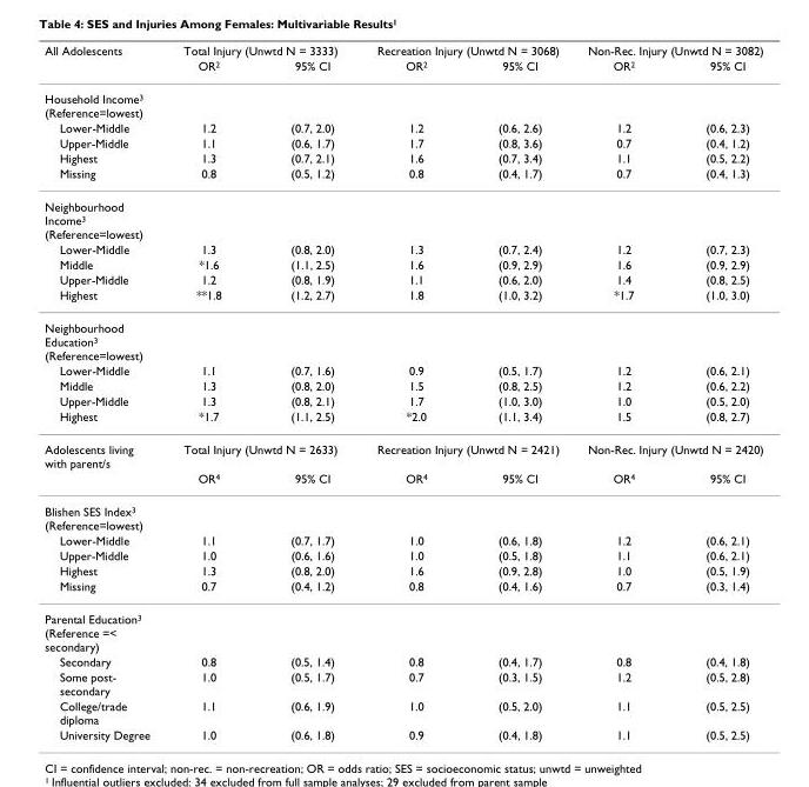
<table><thead><tr><td rowspan="2">All Adolescents</td><td colspan="2">Total Injury (Unwtd N = 3333)</td><td colspan="2">Recreation Injury (Unwtd N = 3068)</td><td colspan="2">Non-Rec. Injury (Unwtd N = 3082)</td></tr><tr><td>OR<sup>2</sup></td><td>95% CI</td><td>OR<sup>2</sup></td><td>95% CI</td><td>OR<sup>2</sup></td><td>95% CI</td></tr></thead><tbody><tr><td colspan="7">Household Income<sup>3</sup> (Reference=lowest)</td></tr><tr><td>Lower-Middle</td><td>1.2</td><td>(0.7, 2.0)</td><td>1.2</td><td>(0.6, 2.6)</td><td>1.2</td><td>(0.6, 2.3)</td></tr><tr><td>Upper-Middle</td><td>1.1</td><td>(0.6, 1.7)</td><td>1.7</td><td>(0.8, 3.6)</td><td>0.7</td><td>(0.4, 1.2)</td></tr><tr><td>Highest</td><td>1.3</td><td>(0.7, 2.1)</td><td>1.6</td><td>(0.7, 3.4)</td><td>1.1</td><td>(0.5, 2.2)</td></tr><tr><td>Missing</td><td>0.8</td><td>(0.5, 1.2)</td><td>0.8</td><td>(0.4, 1.7)</td><td>0.7</td><td>(0.4, 1.3)</td></tr><tr><td colspan="7">Neighbourhood Income<sup>3</sup> (Reference=lowest)</td></tr><tr><td>Lower-Middle</td><td>1.3</td><td>(0.8, 2.0)</td><td>1.3</td><td>(0.7, 2.4)</td><td>1.2</td><td>(0.7, 2.3)</td></tr><tr><td>Middle</td><td>*1.6</td><td>(1.1, 2.5)</td><td>1.6</td><td>(0.9, 2.9)</td><td>1.6</td><td>(0.9, 2.9)</td></tr><tr><td>Upper-Middle</td><td>1.2</td><td>(0.8, 1.9)</td><td>1.1</td><td>(0.6, 2.0)</td><td>1.4</td><td>(0.8, 2.5)</td></tr><tr><td>Highest</td><td>**1.8</td><td>(1.2, 2.7)</td><td>1.8</td><td>(1.0, 3.2)</td><td>*1.7</td><td>(1.0, 3.0)</td></tr><tr><td colspan="7">Neighbourhood Education<sup>3</sup> (Reference=lowest)</td></tr><tr><td>Lower-Middle</td><td>1.1</td><td>(0.7, 1.6)</td><td>0.9</td><td>(0.5, 1.7)</td><td>1.2</td><td>(0.6, 2.1)</td></tr><tr><td>Middle</td><td>1.3</td><td>(0.8, 2.0)</td><td>1.5</td><td>(0.8, 2.5)</td><td>1.2</td><td>(0.6, 2.2)</td></tr><tr><td>Upper-Middle</td><td>1.3</td><td>(0.8, 2.1)</td><td>1.7</td><td>(1.0, 3.0)</td><td>1.0</td><td>(0.5, 2.0)</td></tr><tr><td>Highest</td><td>*1.7</td><td>(1.1, 2.5)</td><td>*2.0</td><td>(1.1, 3.4)</td><td>1.5</td><td>(0.8, 2.7)</td></tr><tr><td rowspan="2">Adolescents living with parent/s</td><td colspan="2">Total Injury (Unwtd N = 2633)</td><td colspan="2">Recreation Injury (Unwtd N = 2421)</td><td colspan="2">Non-Rec. Injury (Unwtd N = 2420)</td></tr><tr><td>OR<sup>4</sup></td><td>95% CI</td><td>OR<sup>4</sup></td><td>95% CI</td><td>OR<sup>4</sup></td><td>95% CI</td></tr><tr><td colspan="7">Blishen SES Index<sup>3</sup> (Reference=lowest)</td></tr><tr><td>Lower-Middle</td><td>1.1</td><td>(0.7, 1.7)</td><td>1.0</td><td>(0.6, 1.8)</td><td>1.2</td><td>(0.6, 2.1)</td></tr><tr><td>Upper-Middle</td><td>1.0</td><td>(0.6, 1.6)</td><td>1.0</td><td>(0.5, 1.8)</td><td>1.1</td><td>(0.6, 2.1)</td></tr><tr><td>Highest</td><td>1.3</td><td>(0.8, 2.0)</td><td>1.6</td><td>(0.9, 2.8)</td><td>1.0</td><td>(0.5, 1.9)</td></tr><tr><td>Missing</td><td>0.7</td><td>(0.4, 1.2)</td><td>0.8</td><td>(0.4, 1.6)</td><td>0.7</td><td>(0.3, 1.4)</td></tr><tr><td colspan="7">Parental Education<sup>3</sup> (Reference =&lt; secondary)</td></tr><tr><td>Secondary</td><td>0.8</td><td>(0.5, 1.4)</td><td>0.8</td><td>(0.4, 1.7)</td><td>0.8</td><td>(0.4, 1.8)</td></tr><tr><td>Some post- secondary</td><td>1.0</td><td>(0.5, 1.7)</td><td>0.7</td><td>(0.3, 1.5)</td><td>1.2</td><td>(0.5, 2.8)</td></tr><tr><td>College/trade diploma</td><td>1.1</td><td>(0.6, 1.9)</td><td>1.0</td><td>(0.5, 2.0)</td><td>1.1</td><td>(0.5, 2.5)</td></tr><tr><td>University Degree</td><td>1.0</td><td>(0.6, 1.8)</td><td>0.9</td><td>(0.4, 1.8)</td><td>1.1</td><td>(0.5, 2.5)</td></tr></tbody></table>